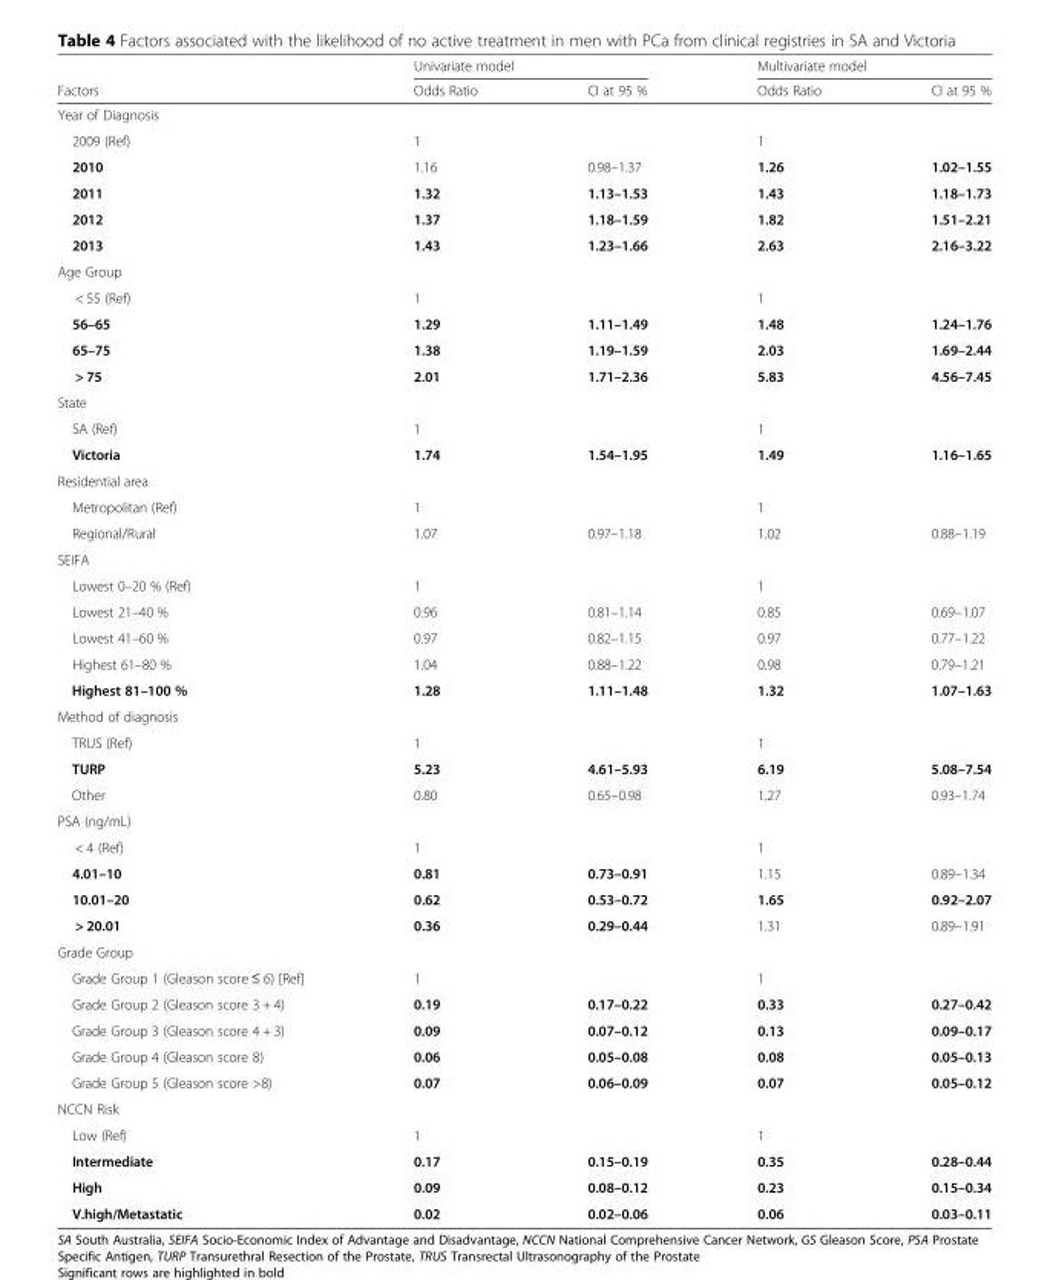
<table><thead><tr><td rowspan="2">Factors</td><td colspan="2">Univariate model</td><td colspan="2">Multivariate model</td></tr><tr><td>Odds Ratio</td><td>CI at 95 %</td><td>Odds Ratio</td><td>CI at 95 %</td></tr></thead><tbody><tr><td colspan="5">Year of Diagnosis</td></tr><tr><td>2009 (Ref)</td><td>1</td><td></td><td>1</td><td></td></tr><tr><td>2010</td><td>1.16</td><td>0.98–1.37</td><td>1.26</td><td>1.02–1.55</td></tr><tr><td>2011</td><td>1.32</td><td>1.13–1.53</td><td>1.43</td><td>1.18–1.73</td></tr><tr><td>2012</td><td>1.37</td><td>1.18–1.59</td><td>1.82</td><td>1.51–2.21</td></tr><tr><td>2013</td><td>1.43</td><td>1.23–1.66</td><td>2.63</td><td>2.16–3.22</td></tr><tr><td colspan="5">Age Group</td></tr><tr><td>&lt; 55 (Ref)</td><td>1</td><td></td><td>1</td><td></td></tr><tr><td>56–65</td><td>1.29</td><td>1.11–1.49</td><td>1.48</td><td>1.24–1.76</td></tr><tr><td>65–75</td><td>1.38</td><td>1.19–1.59</td><td>2.03</td><td>1.69–2.44</td></tr><tr><td>&gt; 75</td><td>2.01</td><td>1.71–2.36</td><td>5.83</td><td>4.56–7.45</td></tr><tr><td colspan="5">State</td></tr><tr><td>SA (Ref)</td><td>1</td><td></td><td>1</td><td></td></tr><tr><td>Victoria</td><td>1.74</td><td>1.54–1.95</td><td>1.49</td><td>1.16–1.65</td></tr><tr><td colspan="5">Residential area</td></tr><tr><td>Metropolitan (Ref)</td><td>1</td><td></td><td>1</td><td></td></tr><tr><td>Regional/Rural</td><td>1.07</td><td>0.97–1.18</td><td>1.02</td><td>0.88–1.19</td></tr><tr><td colspan="5">SEIFA</td></tr><tr><td>Lowest 0–20 % (Ref)</td><td>1</td><td></td><td>1</td><td></td></tr><tr><td>Lowest 21–40 %</td><td>0.96</td><td>0.81–1.14</td><td>0.85</td><td>0.69–1.07</td></tr><tr><td>Lowest 41–60 %</td><td>0.97</td><td>0.82–1.15</td><td>0.97</td><td>0.77–1.22</td></tr><tr><td>Highest 61–80 %</td><td>1.04</td><td>0.88–1.22</td><td>0.98</td><td>0.79–1.21</td></tr><tr><td>Highest 81–100 %</td><td>1.28</td><td>1.11–1.48</td><td>1.32</td><td>1.07–1.63</td></tr><tr><td colspan="5">Method of diagnosis</td></tr><tr><td>TRUS (Ref)</td><td>1</td><td></td><td>1</td><td></td></tr><tr><td>TURP</td><td>5.23</td><td>4.61–5.93</td><td>6.19</td><td>5.08–7.54</td></tr><tr><td>Other</td><td>0.80</td><td>0.65–0.98</td><td>1.27</td><td>0.93–1.74</td></tr><tr><td colspan="5">PSA (ng/mL)</td></tr><tr><td>&lt; 4 (Ref)</td><td>1</td><td></td><td>1</td><td></td></tr><tr><td>4.01–10</td><td>0.81</td><td>0.73–0.91</td><td>1.15</td><td>0.89–1.34</td></tr><tr><td>10.01–20</td><td>0.62</td><td>0.53–0.72</td><td>1.65</td><td>0.92–2.07</td></tr><tr><td>&gt; 20.01</td><td>0.36</td><td>0.29–0.44</td><td>1.31</td><td>0.89–1.91</td></tr><tr><td colspan="5">Grade Group</td></tr><tr><td>Grade Group 1 (Gleason score ≤ 6) [Ref]</td><td>1</td><td></td><td>1</td><td></td></tr><tr><td>Grade Group 2 (Gleason score 3 + 4)</td><td>0.19</td><td>0.17–0.22</td><td>0.33</td><td>0.27–0.42</td></tr><tr><td>Grade Group 3 (Gleason score 4 + 3)</td><td>0.09</td><td>0.07–0.12</td><td>0.13</td><td>0.09–0.17</td></tr><tr><td>Grade Group 4 (Gleason score 8)</td><td>0.06</td><td>0.05–0.08</td><td>0.08</td><td>0.05–0.13</td></tr><tr><td>Grade Group 5 (Gleason score &gt;8)</td><td>0.07</td><td>0.06–0.09</td><td>0.07</td><td>0.05–0.12</td></tr><tr><td colspan="5">NCCN Risk</td></tr><tr><td>Low (Ref)</td><td>1</td><td></td><td>1</td><td></td></tr><tr><td>Intermediate</td><td>0.17</td><td>0.15–0.19</td><td>0.35</td><td>0.28–0.44</td></tr><tr><td>High</td><td>0.09</td><td>0.08–0.12</td><td>0.23</td><td>0.15–0.34</td></tr><tr><td>V.high/Metastatic</td><td>0.02</td><td>0.02–0.06</td><td>0.06</td><td>0.03–0.11</td></tr></tbody></table>